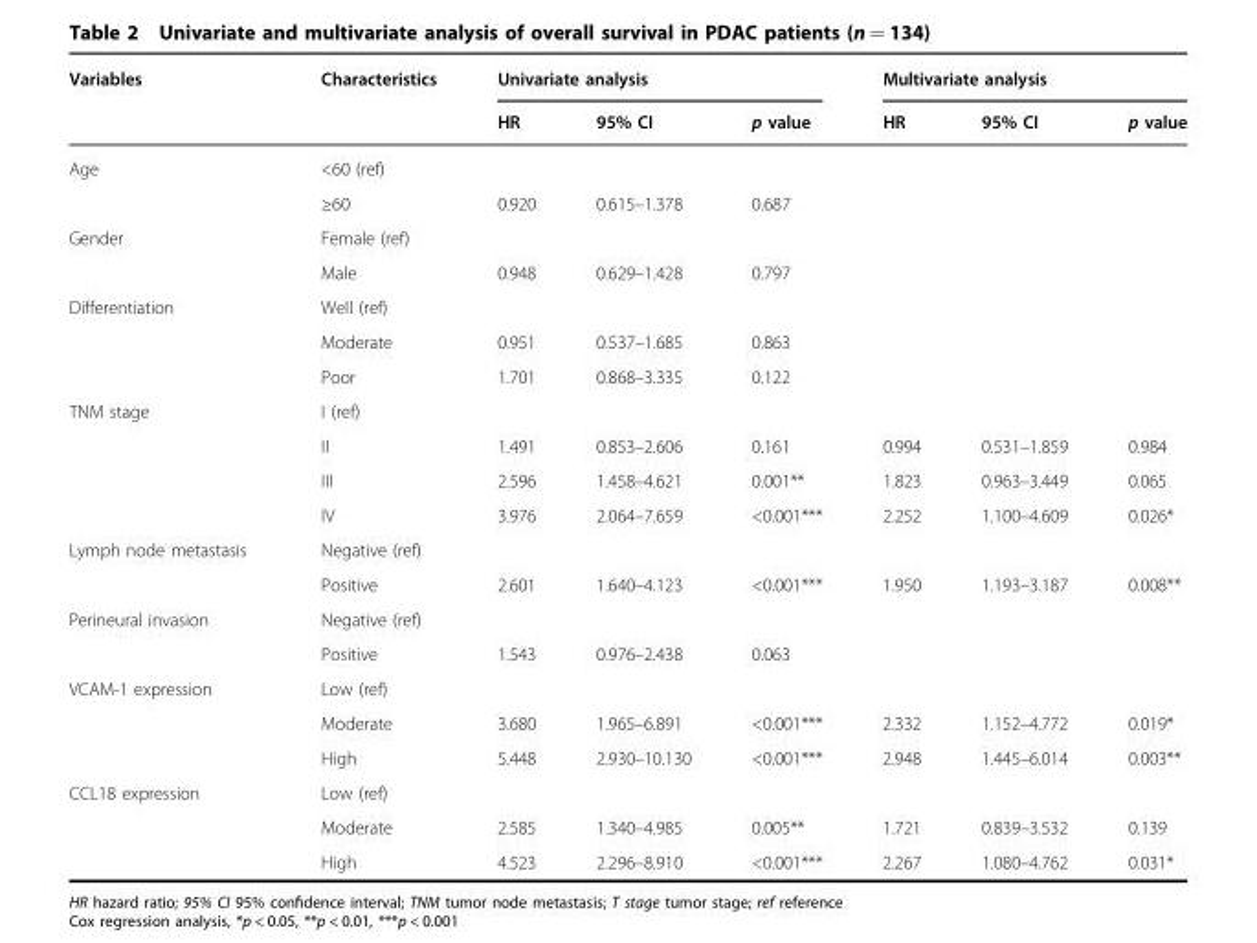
<table><thead><tr><td rowspan="2">Variables</td><td rowspan="2">Characteristics</td><td colspan="3">Univariate analysis</td><td colspan="3">Multivariate analysis</td></tr><tr><td>HR</td><td>95% CI</td><td>p value</td><td>HR</td><td>95% CI</td><td>p value</td></tr></thead><tbody><tr><td rowspan="2">Age</td><td>&lt;60 (ref)</td><td></td><td></td><td></td><td></td><td></td><td></td></tr><tr><td>≥60</td><td>0.920</td><td>0.615–1.378</td><td>0.687</td><td></td><td></td><td></td></tr><tr><td rowspan="2">Gender</td><td>Female (ref)</td><td></td><td></td><td></td><td></td><td></td><td></td></tr><tr><td>Male</td><td>0.948</td><td>0.629–1.428</td><td>0.797</td><td></td><td></td><td></td></tr><tr><td rowspan="3">Differentiation</td><td>Well (ref)</td><td></td><td></td><td></td><td></td><td></td><td></td></tr><tr><td>Moderate</td><td>0.951</td><td>0.537–1.685</td><td>0.863</td><td></td><td></td><td></td></tr><tr><td>Poor</td><td>1.701</td><td>0.868–3.335</td><td>0.122</td><td></td><td></td><td></td></tr><tr><td rowspan="4">TNM stage</td><td>I (ref)</td><td></td><td></td><td></td><td></td><td></td><td></td></tr><tr><td>II</td><td>1.491</td><td>0.853–2.606</td><td>0.161</td><td>0.994</td><td>0.531–1.859</td><td>0.984</td></tr><tr><td>III</td><td>2.596</td><td>1.458–4.621</td><td>0.001**</td><td>1.823</td><td>0.963–3.449</td><td>0.065</td></tr><tr><td>IV</td><td>3.976</td><td>2.064–7.659</td><td>&lt;0.001***</td><td>2.252</td><td>1.100–4.609</td><td>0.026*</td></tr><tr><td rowspan="2">Lymph node metastasis</td><td>Negative (ref)</td><td></td><td></td><td></td><td></td><td></td><td></td></tr><tr><td>Positive</td><td>2.601</td><td>1.640–4.123</td><td>&lt;0.001***</td><td>1.950</td><td>1.193–3.187</td><td>0.008**</td></tr><tr><td rowspan="2">Perineural invasion</td><td>Negative (ref)</td><td></td><td></td><td></td><td></td><td></td><td></td></tr><tr><td>Positive</td><td>1.543</td><td>0.976–2.438</td><td>0.063</td><td></td><td></td><td></td></tr><tr><td rowspan="3">VCAM-1 expression</td><td>Low (ref)</td><td></td><td></td><td></td><td></td><td></td><td></td></tr><tr><td>Moderate</td><td>3.680</td><td>1.965–6.891</td><td>&lt;0.001***</td><td>2.332</td><td>1.152–4.772</td><td>0.019*</td></tr><tr><td>High</td><td>5.448</td><td>2.930–10.130</td><td>&lt;0.001***</td><td>2.948</td><td>1.445–6.014</td><td>0.003**</td></tr><tr><td rowspan="3">CCL18 expression</td><td>Low (ref)</td><td></td><td></td><td></td><td></td><td></td><td></td></tr><tr><td>Moderate</td><td>2.585</td><td>1.340–4.985</td><td>0.005**</td><td>1.721</td><td>0.839–3.532</td><td>0.139</td></tr><tr><td>High</td><td>4.523</td><td>2.296–8.910</td><td>&lt;0.001***</td><td>2.267</td><td>1.080–4.762</td><td>0.031*</td></tr></tbody></table>